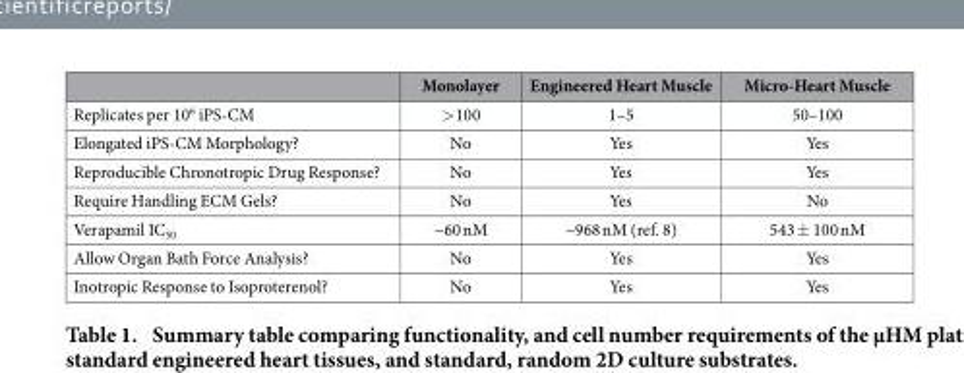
<table><thead><tr><td></td><td>Monolayer</td><td>Engineered Heart Muscle</td><td>Micro-Heart Muscle</td></tr></thead><tbody><tr><td>Replicates per 10<sup>6</sup> iPS-CM</td><td>&gt; 100</td><td>1–5</td><td>50–100</td></tr><tr><td>Elongated iPS-CM Morphology?</td><td>No</td><td>Yes</td><td>Yes</td></tr><tr><td>Reproducible Chronotropic Drug Response?</td><td>No</td><td>Yes</td><td>Yes</td></tr><tr><td>Require Handling ECM Gels?</td><td>No</td><td>Yes</td><td>No</td></tr><tr><td>Verapamil IC<sub>50</sub></td><td>~60 nM</td><td>~968 nM (ref. 8)</td><td>543 ± 100 nM</td></tr><tr><td>Allow Organ Bath Force Analysis?</td><td>No</td><td>Yes</td><td>Yes</td></tr><tr><td>Inotropic Response to Isoproterenol?</td><td>No</td><td>Yes</td><td>Yes</td></tr></tbody></table>